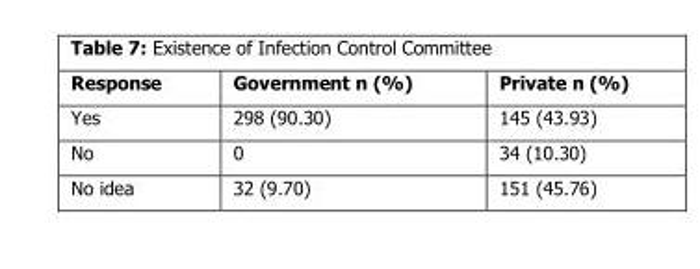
<table><thead><tr><td>Response</td><td>Government n (%)</td><td>Private n (%)</td></tr></thead><tbody><tr><td>Yes</td><td>298 (90.30)</td><td>145 (43.93)</td></tr><tr><td>No</td><td>0</td><td>34 (10.30)</td></tr><tr><td>No idea</td><td>32 (9.70)</td><td>151 (45.76)</td></tr></tbody></table>